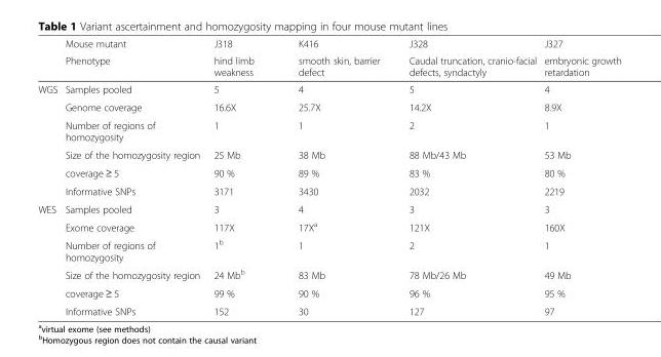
<table><thead><tr><td rowspan="2"></td><td rowspan="2">Mouse mutant Phenotype</td><td rowspan="2">J318 hind limb weakness</td><td rowspan="2">K416 smooth skin, barrier defect</td><td rowspan="2">J328 Caudal truncation, cranio-facial defects, syndactyly</td><td rowspan="2">J327 embryonic growth retardation</td></tr><tr></tr></thead><tbody><tr><td rowspan="6">WGS</td><td>Samples pooled</td><td>5</td><td>4</td><td>5</td><td>4</td></tr><tr><td>Genome coverage</td><td>16.6X</td><td>25.7X</td><td>14.2X</td><td>8.9X</td></tr><tr><td>Number of regions of homozygosity</td><td>1</td><td>1</td><td>2</td><td>1</td></tr><tr><td>Size of the homozygosity region</td><td>25 Mb</td><td>38 Mb</td><td>88 Mb/43 Mb</td><td>53 Mb</td></tr><tr><td>coverage ≥ 5</td><td>90 %</td><td>89 %</td><td>83 %</td><td>80 %</td></tr><tr><td>Informative SNPs</td><td>3171</td><td>3430</td><td>2032</td><td>2219</td></tr><tr><td rowspan="6">WES</td><td>Samples pooled</td><td>3</td><td>4</td><td>3</td><td>3</td></tr><tr><td>Exome coverage</td><td>117X</td><td>17X<sup>a</sup></td><td>121X</td><td>160X</td></tr><tr><td>Number of regions of homozygosity</td><td>1<sup>b</sup></td><td>1</td><td>2</td><td>1</td></tr><tr><td>Size of the homozygosity region</td><td>24 Mb<sup>b</sup></td><td>83 Mb</td><td>78 Mb/26 Mb</td><td>49 Mb</td></tr><tr><td>coverage ≥ 5</td><td>99 %</td><td>90 %</td><td>96 %</td><td>95 %</td></tr><tr><td>Informative SNPs</td><td>152</td><td>30</td><td>127</td><td>97</td></tr></tbody></table>